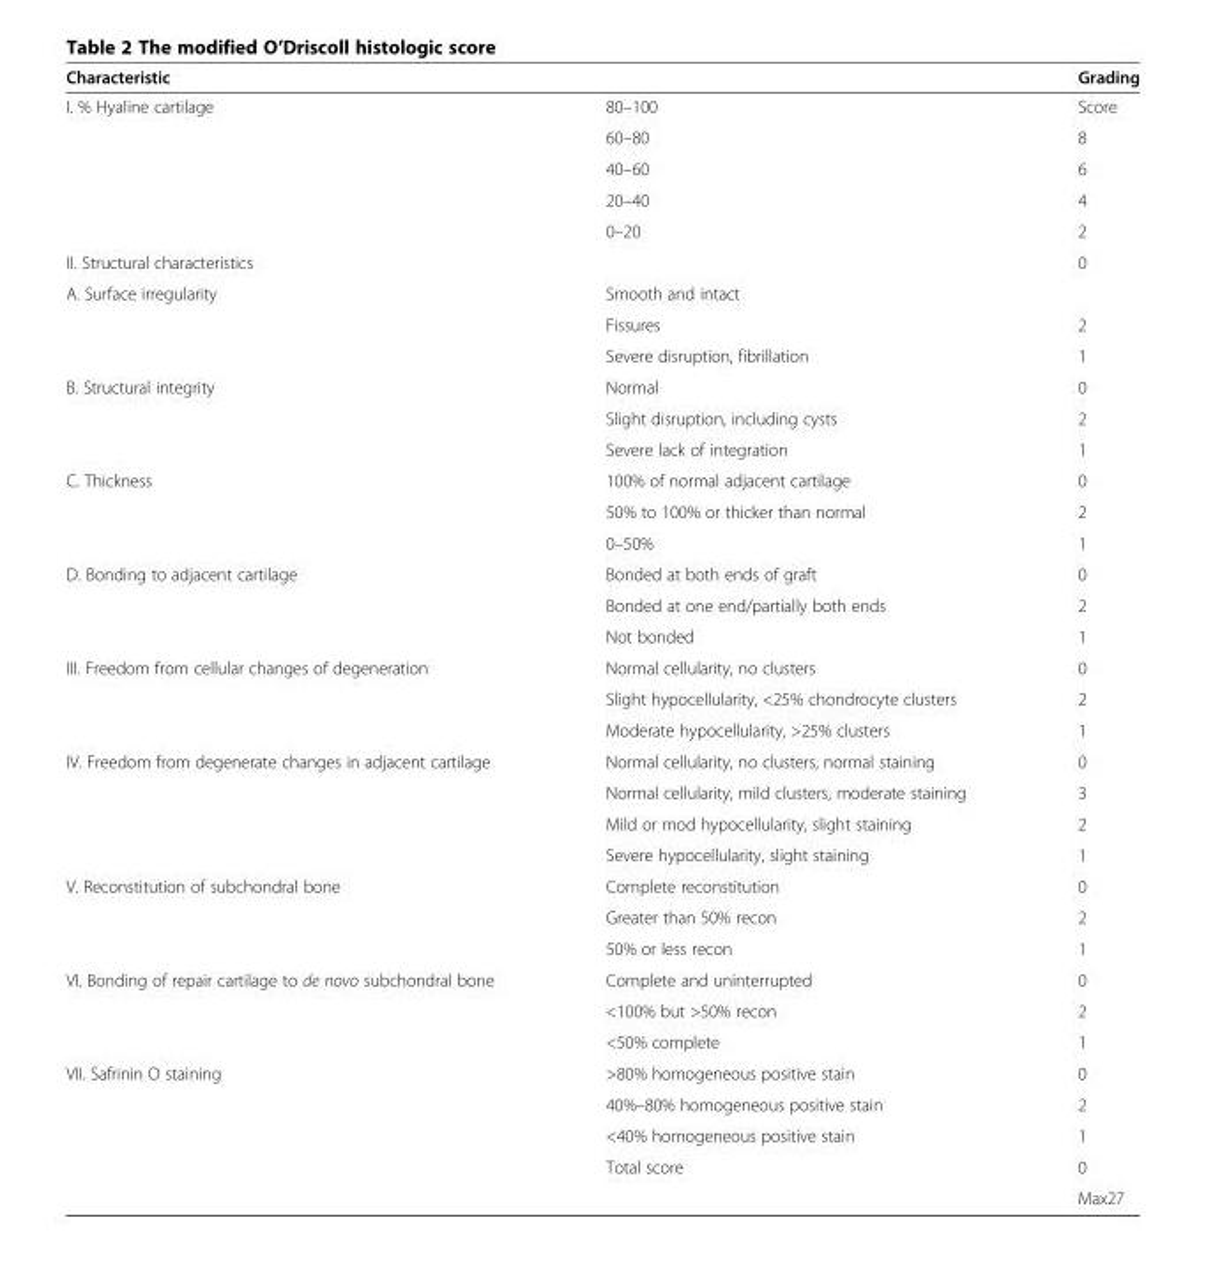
<table><thead><tr><td colspan="2">Characteristic</td><td rowspan="2">Grading Score</td></tr><tr><td>I. % Hyaline cartilage</td><td>80–100</td></tr></thead><tbody><tr><td></td><td>60–80</td><td>8</td></tr><tr><td></td><td>40–60</td><td>6</td></tr><tr><td></td><td>20–40</td><td>4</td></tr><tr><td></td><td>0–20</td><td>2</td></tr><tr><td>II. Structural characteristics</td><td></td><td>0</td></tr><tr><td rowspan="3">A. Surface irregularity</td><td>Smooth and intact</td><td></td></tr><tr><td>Fissures</td><td>2</td></tr><tr><td>Severe disruption, fibrillation</td><td>1</td></tr><tr><td rowspan="3">B. Structural integrity</td><td>Normal</td><td>0</td></tr><tr><td>Slight disruption, including cysts</td><td>2</td></tr><tr><td>Severe lack of integration</td><td>1</td></tr><tr><td rowspan="3">C. Thickness</td><td>100% of normal adjacent cartilage</td><td>0</td></tr><tr><td>50% to 100% or thicker than normal</td><td>2</td></tr><tr><td>0–50%</td><td>1</td></tr><tr><td rowspan="3">D. Bonding to adjacent cartilage</td><td>Bonded at both ends of graft</td><td>0</td></tr><tr><td>Bonded at one end/partially both ends</td><td>2</td></tr><tr><td>Not bonded</td><td>1</td></tr><tr><td rowspan="3">III. Freedom from cellular changes of degeneration</td><td>Normal cellularity, no clusters</td><td>0</td></tr><tr><td>Slight hypocellularity, &lt;25% chondrocyte clusters</td><td>2</td></tr><tr><td>Moderate hypocellularity, &gt;25% clusters</td><td>1</td></tr><tr><td rowspan="4">IV. Freedom from degenerate changes in adjacent cartilage</td><td>Normal cellularity, no clusters, normal staining</td><td>0</td></tr><tr><td>Normal cellularity, mild clusters, moderate staining</td><td>3</td></tr><tr><td>Mild or mod hypocellularity, slight staining</td><td>2</td></tr><tr><td>Severe hypocellularity, slight staining</td><td>1</td></tr><tr><td rowspan="3">V. Reconstitution of subchondral bone</td><td>Complete reconstitution</td><td>0</td></tr><tr><td>Greater than 50% recon</td><td>2</td></tr><tr><td>50% or less recon</td><td>1</td></tr><tr><td rowspan="3">VI. Bonding of repair cartilage to de novo subchondral bone</td><td>Complete and uninterrupted</td><td>0</td></tr><tr><td>&lt;100% but &gt;50% recon</td><td>2</td></tr><tr><td>&lt;50% complete</td><td>1</td></tr><tr><td rowspan="5">VII. Safrinin O staining</td><td>&gt;80% homogeneous positive stain</td><td>0</td></tr><tr><td>40%–80% homogeneous positive stain</td><td>2</td></tr><tr><td>&lt;40% homogeneous positive stain</td><td>1</td></tr><tr><td>Total score</td><td>0</td></tr><tr><td></td><td>Max27</td></tr></tbody></table>